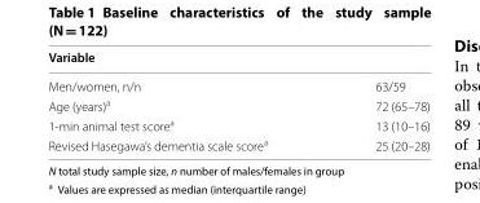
<table><thead><tr><td>Variable</td><td></td></tr></thead><tbody><tr><td>Men/women, n/n</td><td>63/59</td></tr><tr><td>Age (years)<sup>a</sup></td><td>72 (65–78)</td></tr><tr><td>1-min animal test score<sup>a</sup></td><td>13 (10–16)</td></tr><tr><td>Revised Hasegawa’s dementia scale score<sup>a</sup></td><td>25 (20–28)</td></tr></tbody></table>